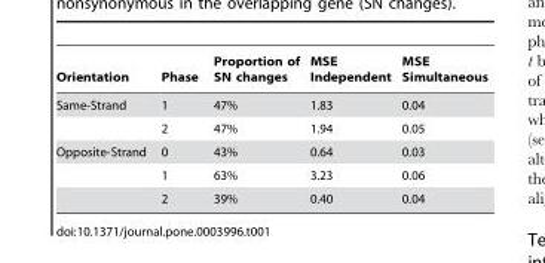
<table><thead><tr><td>Orientation</td><td>Phase</td><td>Proportion of SN changes</td><td>MSE Independent</td><td>MSE Simultaneous</td></tr></thead><tbody><tr><td rowspan="2">Same-Strand</td><td>1</td><td>47%</td><td>1.83</td><td>0.04</td></tr><tr><td>2</td><td>47%</td><td>1.94</td><td>0.05</td></tr><tr><td rowspan="3">Opposite-Strand</td><td>0</td><td>43%</td><td>0.64</td><td>0.03</td></tr><tr><td>1</td><td>63%</td><td>3.23</td><td>0.06</td></tr><tr><td>2</td><td>39%</td><td>0.40</td><td>0.04</td></tr></tbody></table>